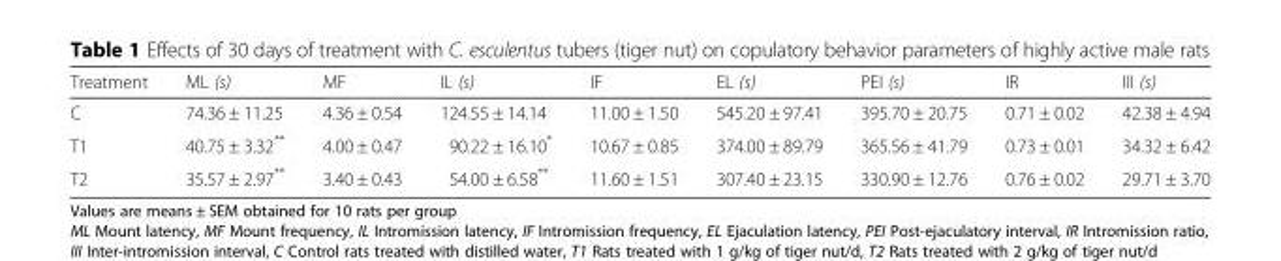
<table><thead><tr><td>Treatment</td><td>ML (s)</td><td>MF</td><td>IL (s)</td><td>IF</td><td>EL (s)</td><td>PEI (s)</td><td>IR</td><td>III (s)</td></tr></thead><tbody><tr><td>C</td><td>74.36 ± 11.25</td><td>4.36 ± 0.54</td><td>124.55 ± 14.14</td><td>11.00 ± 1.50</td><td>545.20 ± 97.41</td><td>395.70 ± 20.75</td><td>0.71 ± 0.02</td><td>42.38 ± 4.94</td></tr><tr><td>T1</td><td>40.75 ± 3.32**</td><td>4.00 ± 0.47</td><td>90.22 ± 16.10*</td><td>10.67 ± 0.85</td><td>374.00 ± 89.79</td><td>365.56 ± 41.79</td><td>0.73 ± 0.01</td><td>34.32 ± 6.42</td></tr><tr><td>T2</td><td>35.57 ± 2.97**</td><td>3.40 ± 0.43</td><td>54.00 ± 6.58**</td><td>11.60 ± 1.51</td><td>307.40 ± 23.15</td><td>330.90 ± 12.76</td><td>0.76 ± 0.02</td><td>29.71 ± 3.70</td></tr></tbody></table>